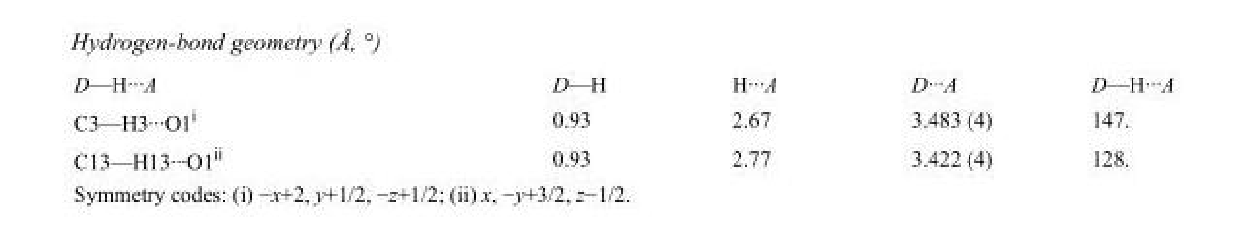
<table><tbody><tr><td>D—H···A</td><td>D—H</td><td>H···A</td><td>D···A</td><td>D—H···A</td></tr><tr><td>C3—H3···O1<sup>i</sup></td><td>0.93</td><td>2.67</td><td>3.483 (4)</td><td>147.</td></tr><tr><td>C13—H13···O1<sup>ii</sup></td><td>0.93</td><td>2.77</td><td>3.422 (4)</td><td>128.</td></tr></tbody></table>